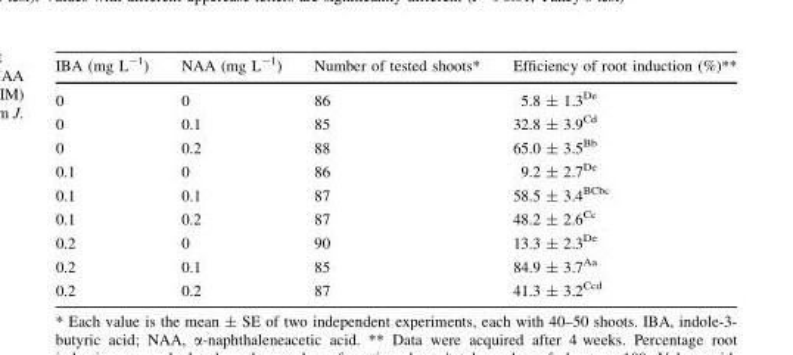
<table><thead><tr><td>IBA (mg L<sup>-1</sup>)</td><td>NAA (mg L<sup>-1</sup>)</td><td>Number of tested shoots*</td><td>Efficiency of root induction (%)**</td></tr></thead><tbody><tr><td>0</td><td>0</td><td>86</td><td>5.8 ± 1.3<sup>De</sup></td></tr><tr><td>0</td><td>0.1</td><td>85</td><td>32.8 ± 3.9<sup>Cd</sup></td></tr><tr><td>0</td><td>0.2</td><td>88</td><td>65.0 ± 3.5<sup>Bb</sup></td></tr><tr><td>0.1</td><td>0</td><td>86</td><td>9.2 ± 2.7<sup>De</sup></td></tr><tr><td>0.1</td><td>0.1</td><td>87</td><td>58.5 ± 3.4<sup>BCbc</sup></td></tr><tr><td>0.1</td><td>0.2</td><td>87</td><td>48.2 ± 2.6<sup>Cc</sup></td></tr><tr><td>0.2</td><td>0</td><td>90</td><td>13.3 ± 2.3<sup>De</sup></td></tr><tr><td>0.2</td><td>0.1</td><td>85</td><td>84.9 ± 3.7<sup>Aa</sup></td></tr><tr><td>0.2</td><td>0.2</td><td>87</td><td>41.3 ± 3.2<sup>Ccd</sup></td></tr></tbody></table>